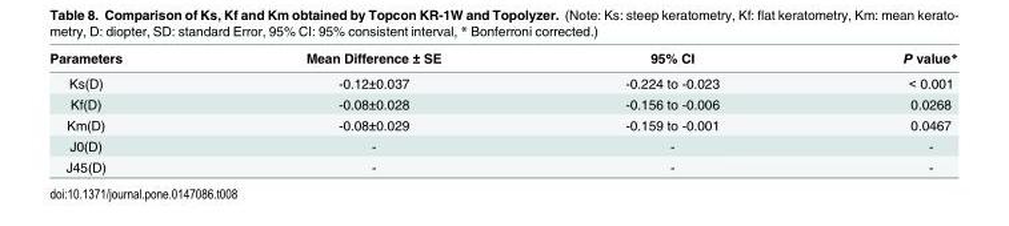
<table><thead><tr><td>Parameters</td><td>Mean Difference ± SE</td><td>95% CI</td><td>P value*</td></tr></thead><tbody><tr><td>Ks(D)</td><td>-0.12±0.037</td><td>-0.224 to -0.023</td><td>&lt; 0.001</td></tr><tr><td>Kf(D)</td><td>-0.08±0.028</td><td>-0.156 to -0.006</td><td>0.0268</td></tr><tr><td>Km(D)</td><td>-0.08±0.029</td><td>-0.159 to -0.001</td><td>0.0467</td></tr><tr><td>J0(D)</td><td>-</td><td>-</td><td>-</td></tr><tr><td>J45(D)</td><td>-</td><td>-</td><td>-</td></tr></tbody></table>